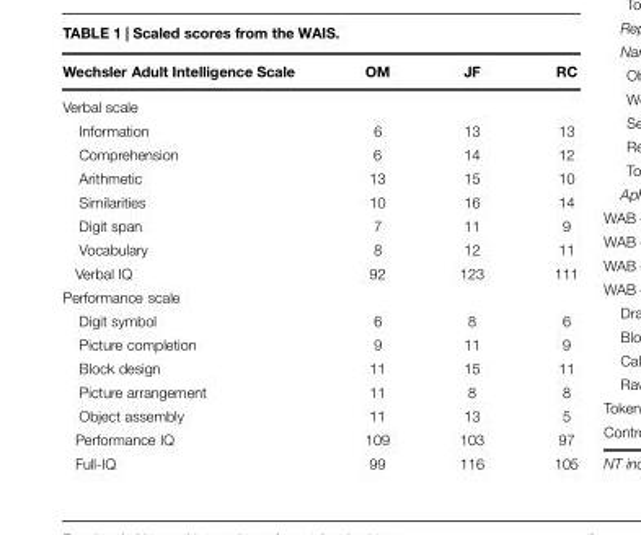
<table><thead><tr><td>Wechsler Adult Intelligence Scale</td><td>OM</td><td>JF</td><td>RC</td></tr></thead><tbody><tr><td colspan="4">Verbal scale</td></tr><tr><td>Information</td><td>6</td><td>13</td><td>13</td></tr><tr><td>Comprehension</td><td>6</td><td>14</td><td>12</td></tr><tr><td>Arithmetic</td><td>13</td><td>15</td><td>10</td></tr><tr><td>Similarities</td><td>10</td><td>16</td><td>14</td></tr><tr><td>Digit span</td><td>7</td><td>11</td><td>9</td></tr><tr><td>Vocabulary</td><td>8</td><td>12</td><td>11</td></tr><tr><td>Verbal IQ</td><td>92</td><td>123</td><td>111</td></tr><tr><td colspan="4">Performance scale</td></tr><tr><td>Digit symbol</td><td>6</td><td>8</td><td>6</td></tr><tr><td>Picture completion</td><td>9</td><td>11</td><td>9</td></tr><tr><td>Block design</td><td>11</td><td>15</td><td>11</td></tr><tr><td>Picture arrangement</td><td>11</td><td>8</td><td>8</td></tr><tr><td>Object assembly</td><td>11</td><td>13</td><td>5</td></tr><tr><td>Performance IQ</td><td>109</td><td>103</td><td>97</td></tr><tr><td>Full-IQ</td><td>99</td><td>116</td><td>105</td></tr></tbody></table>